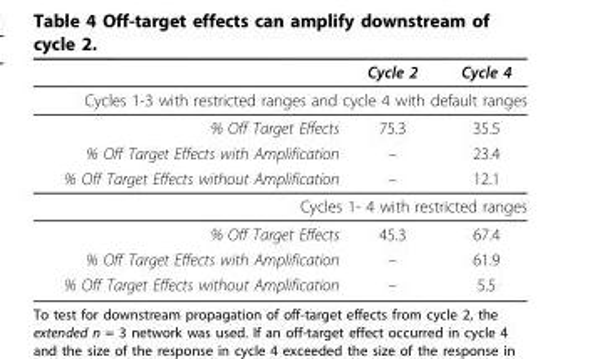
<table><thead><tr><td></td><td>Cycle 2</td><td>Cycle 4</td></tr></thead><tbody><tr><td colspan="3">Cycles 1-3 with restricted ranges and cycle 4 with default ranges</td></tr><tr><td>% Off Target Effects</td><td>75.3</td><td>35.5</td></tr><tr><td>% Off Target Effects with Amplification</td><td>–</td><td>23.4</td></tr><tr><td>% Off Target Effects without Amplification</td><td>–</td><td>12.1</td></tr><tr><td colspan="3">Cycles 1- 4 with restricted ranges</td></tr><tr><td>% Off Target Effects</td><td>45.3</td><td>67.4</td></tr><tr><td>% Off Target Effects with Amplification</td><td>–</td><td>61.9</td></tr><tr><td>% Off Target Effects without Amplification</td><td>–</td><td>5.5</td></tr></tbody></table>